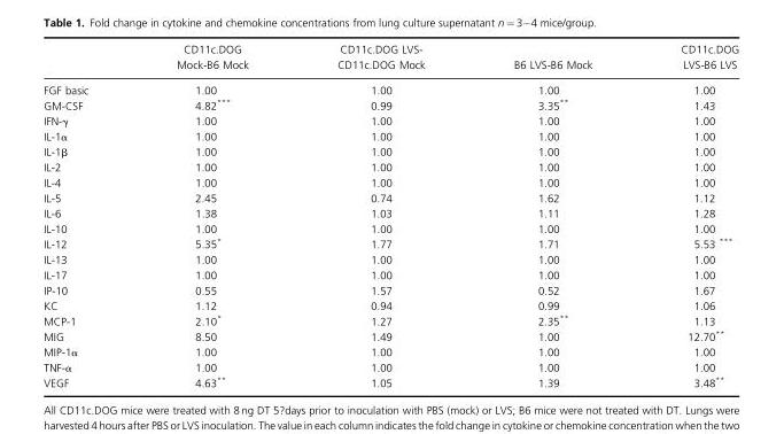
<table><thead><tr><td></td><td>CD11c.DOG Mock-B6 Mock</td><td>CD11c.DOG LVS- CD11c.DOG Mock</td><td>B6 LVS-B6 Mock</td><td>CD11c.DOG LVS-B6 LVS</td></tr></thead><tbody><tr><td>FGF basic</td><td>1.00</td><td>1.00</td><td>1.00</td><td>1.00</td></tr><tr><td>GM-CSF</td><td>4.82***</td><td>0.99</td><td>3.35**</td><td>1.43</td></tr><tr><td>IFN-γ</td><td>1.00</td><td>1.00</td><td>1.00</td><td>1.00</td></tr><tr><td>IL-1α</td><td>1.00</td><td>1.00</td><td>1.00</td><td>1.00</td></tr><tr><td>IL-1β</td><td>1.00</td><td>1.00</td><td>1.00</td><td>1.00</td></tr><tr><td>IL-2</td><td>1.00</td><td>1.00</td><td>1.00</td><td>1.00</td></tr><tr><td>IL-4</td><td>1.00</td><td>1.00</td><td>1.00</td><td>1.00</td></tr><tr><td>IL-5</td><td>2.45</td><td>0.74</td><td>1.62</td><td>1.12</td></tr><tr><td>IL-6</td><td>1.38</td><td>1.03</td><td>1.11</td><td>1.28</td></tr><tr><td>IL-10</td><td>1.00</td><td>1.00</td><td>1.00</td><td>1.00</td></tr><tr><td>IL-12</td><td>5.35*</td><td>1.77</td><td>1.71</td><td>5.53 ***</td></tr><tr><td>IL-13</td><td>1.00</td><td>1.00</td><td>1.00</td><td>1.00</td></tr><tr><td>IL-17</td><td>1.00</td><td>1.00</td><td>1.00</td><td>1.00</td></tr><tr><td>IP-10</td><td>0.55</td><td>1.57</td><td>0.52</td><td>1.67</td></tr><tr><td>KC</td><td>1.12</td><td>0.94</td><td>0.99</td><td>1.06</td></tr><tr><td>MCP-1</td><td>2.10*</td><td>1.27</td><td>2.35**</td><td>1.13</td></tr><tr><td>MIG</td><td>8.50</td><td>1.49</td><td>1.00</td><td>12.70**</td></tr><tr><td>MIP-1α</td><td>1.00</td><td>1.00</td><td>1.00</td><td>1.00</td></tr><tr><td>TNF-α</td><td>1.00</td><td>1.00</td><td>1.00</td><td>1.00</td></tr><tr><td>VEGF</td><td>4.63**</td><td>1.05</td><td>1.39</td><td>3.48**</td></tr></tbody></table>